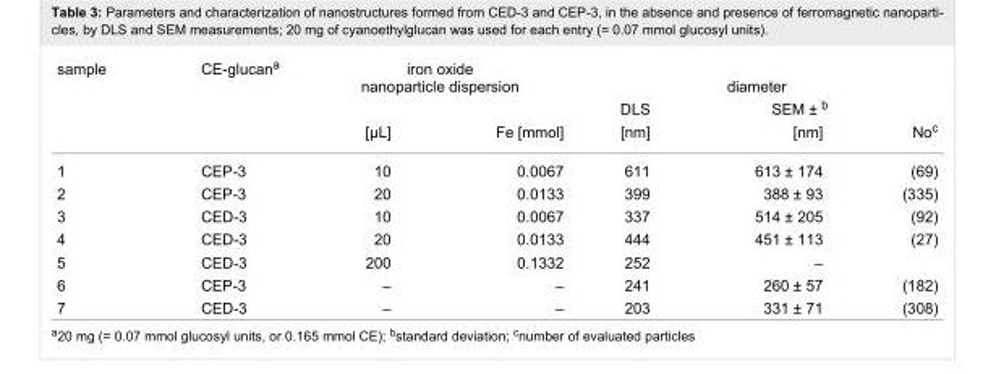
<table><tbody><tr><td rowspan="3">sample</td><td>CE-glucan<sup>a</sup></td><td colspan="2">iron oxide nanoparticle dispersion</td><td colspan="3">diameter</td></tr><tr><td rowspan="2"></td><td rowspan="2">[μL]</td><td rowspan="2">Fe [mmol]</td><td>DLS</td><td colspan="2">SEM ± <sup>b</sup></td></tr><tr><td>[nm]</td><td>[nm]</td><td>No<sup>c</sup></td></tr><tr><td>1</td><td>CEP-3</td><td>10</td><td>0.0067</td><td>611</td><td>613 ± 174</td><td>(69)</td></tr><tr><td>2</td><td>CEP-3</td><td>20</td><td>0.0133</td><td>399</td><td>388 ± 93</td><td>(335)</td></tr><tr><td>3</td><td>CED-3</td><td>10</td><td>0.0067</td><td>337</td><td>514 ± 205</td><td>(92)</td></tr><tr><td>4</td><td>CED-3</td><td>20</td><td>0.0133</td><td>444</td><td>451 ± 113</td><td>(27)</td></tr><tr><td>5</td><td>CED-3</td><td>200</td><td>0.1332</td><td>252</td><td>–</td><td></td></tr><tr><td>6</td><td>CEP-3</td><td>–</td><td>–</td><td>241</td><td>260 ± 57</td><td>(182)</td></tr><tr><td>7</td><td>CED-3</td><td>–</td><td>–</td><td>203</td><td>331 ± 71</td><td>(308)</td></tr></tbody></table>